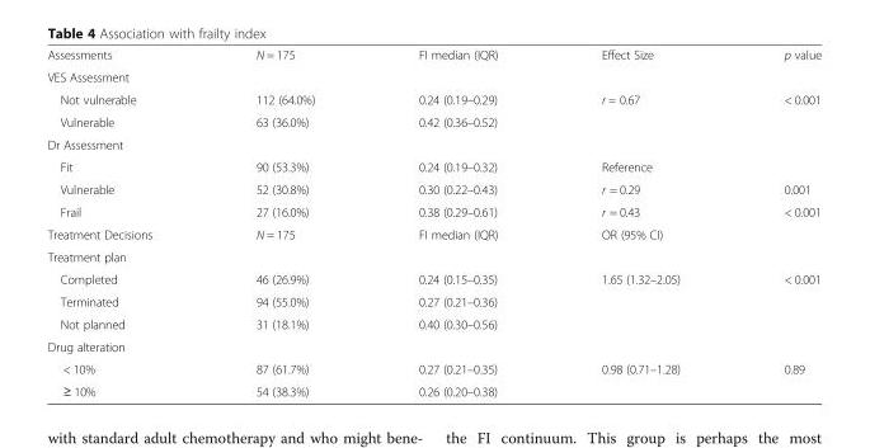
<table><tbody><tr><td>Assessments</td><td>N = 175</td><td>FI median (IQR)</td><td>Effect Size</td><td>p value</td></tr><tr><td colspan="5">VES Assessment</td></tr><tr><td>Not vulnerable</td><td>112 (64.0%)</td><td>0.24 (0.19–0.29)</td><td>r = 0.67</td><td>&lt; 0.001</td></tr><tr><td>Vulnerable</td><td>63 (36.0%)</td><td>0.42 (0.36–0.52)</td><td></td><td></td></tr><tr><td colspan="5">Dr Assessment</td></tr><tr><td>Fit</td><td>90 (53.3%)</td><td>0.24 (0.19–0.32)</td><td>Reference</td><td></td></tr><tr><td>Vulnerable</td><td>52 (30.8%)</td><td>0.30 (0.22–0.43)</td><td>r = 0.29</td><td>0.001</td></tr><tr><td>Frail</td><td>27 (16.0%)</td><td>0.38 (0.29–0.61)</td><td>r = 0.43</td><td>&lt; 0.001</td></tr><tr><td>Treatment Decisions</td><td>N = 175</td><td>FI median (IQR)</td><td>OR (95% CI)</td><td></td></tr><tr><td colspan="5">Treatment plan</td></tr><tr><td>Completed</td><td>46 (26.9%)</td><td>0.24 (0.15–0.35)</td><td>1.65 (1.32–2.05)</td><td>&lt; 0.001</td></tr><tr><td>Terminated</td><td>94 (55.0%)</td><td>0.27 (0.21–0.36)</td><td></td><td></td></tr><tr><td>Not planned</td><td>31 (18.1%)</td><td>0.40 (0.30–0.56)</td><td></td><td></td></tr><tr><td colspan="5">Drug alteration</td></tr><tr><td>&lt; 10%</td><td>87 (61.7%)</td><td>0.27 (0.21–0.35)</td><td>0.98 (0.71–1.28)</td><td>0.89</td></tr><tr><td>≥ 10%</td><td>54 (38.3%)</td><td>0.26 (0.20–0.38)</td><td></td><td></td></tr></tbody></table>